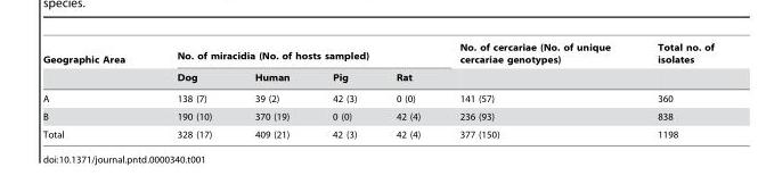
<table><thead><tr><td rowspan="2">Geographic Area</td><td colspan="4">No. of miracidia (No. of hosts sampled)</td><td rowspan="2">No. of cercariae (No. of unique cercariae genotypes)</td><td rowspan="2">Total no. of isolates</td></tr><tr><td>Dog</td><td>Human</td><td>Pig</td><td>Rat</td></tr></thead><tbody><tr><td>A</td><td>138 (7)</td><td>39 (2)</td><td>42 (3)</td><td>0 (0)</td><td>141 (57)</td><td>360</td></tr><tr><td>B</td><td>190 (10)</td><td>370 (19)</td><td>0 (0)</td><td>42 (4)</td><td>236 (93)</td><td>838</td></tr><tr><td>Total</td><td>328 (17)</td><td>409 (21)</td><td>42 (3)</td><td>42 (4)</td><td>377 (150)</td><td>1198</td></tr></tbody></table>